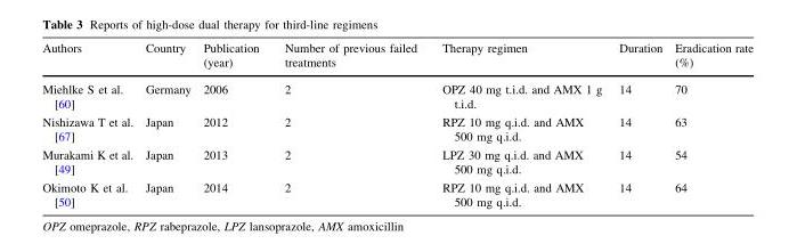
<table><thead><tr><td>Authors</td><td>Country</td><td>Publication (year)</td><td>Number of previous failed treatments</td><td>Therapy regimen</td><td>Duration</td><td>Eradication rate (%)</td></tr></thead><tbody><tr><td>Miehlke S et al. [60]</td><td>Germany</td><td>2006</td><td>2</td><td>OPZ 40 mg t.i.d. and AMX 1 g t.i.d.</td><td>14</td><td>70</td></tr><tr><td>Nishizawa T et al. [67]</td><td>Japan</td><td>2012</td><td>2</td><td>RPZ 10 mg q.i.d. and AMX 500 mg q.i.d.</td><td>14</td><td>63</td></tr><tr><td>Murakami K et al. [49]</td><td>Japan</td><td>2013</td><td>2</td><td>LPZ 30 mg q.i.d. and AMX 500 mg q.i.d.</td><td>14</td><td>54</td></tr><tr><td>Okimoto K et al. [50]</td><td>Japan</td><td>2014</td><td>2</td><td>RPZ 10 mg q.i.d. and AMX 500 mg q.i.d.</td><td>14</td><td>64</td></tr></tbody></table>